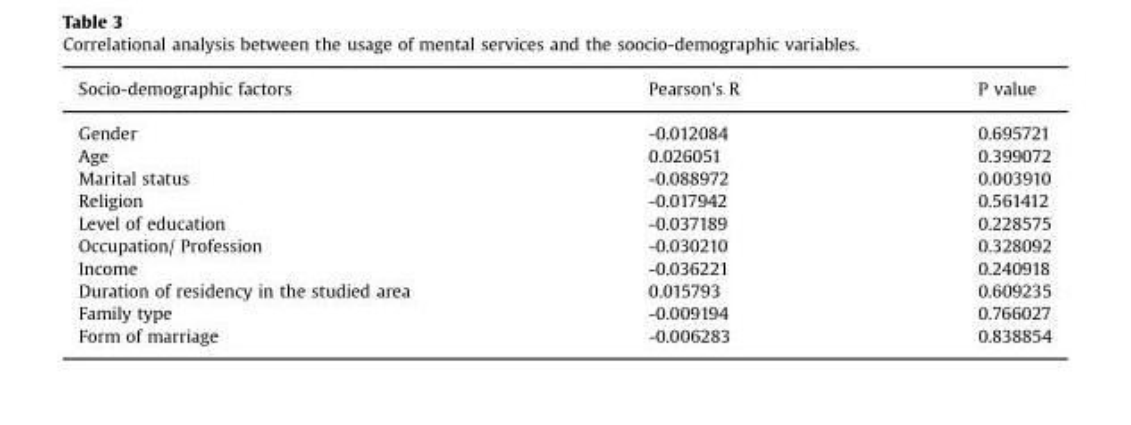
<table><thead><tr><td>Socio-demographic factors</td><td>Pearson&#x27;s R</td><td>P value</td></tr></thead><tbody><tr><td>Gender</td><td>-0.012084</td><td>0.695721</td></tr><tr><td>Age</td><td>0.026051</td><td>0.399072</td></tr><tr><td>Marital status</td><td>-0.088972</td><td>0.003910</td></tr><tr><td>Religion</td><td>-0.017942</td><td>0.561412</td></tr><tr><td>Level of education</td><td>-0.037189</td><td>0.228575</td></tr><tr><td>Occupation/ Profession</td><td>-0.030210</td><td>0.328092</td></tr><tr><td>Income</td><td>-0.036221</td><td>0.240918</td></tr><tr><td>Duration of residency in the studied area</td><td>0.015793</td><td>0.609235</td></tr><tr><td>Family type</td><td>-0.009194</td><td>0.766027</td></tr><tr><td>Form of marriage</td><td>-0.006283</td><td>0.838854</td></tr></tbody></table>